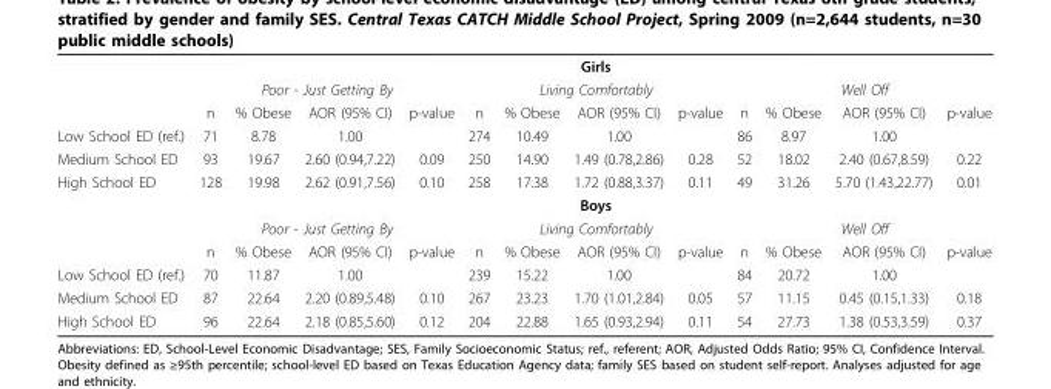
<table><thead><tr><td rowspan="3"></td><td colspan="12">Girls</td></tr><tr><td colspan="4">Poor - Just Getting By</td><td colspan="4">Living Comfortably</td><td colspan="4">Well Off</td></tr><tr><td>n</td><td>% Obese</td><td>AOR (95% CI)</td><td>p-value</td><td>n</td><td>% Obese</td><td>AOR (95% CI)</td><td>p-value</td><td>n</td><td>% Obese</td><td>AOR (95% CI)</td><td>p-value</td></tr></thead><tbody><tr><td>Low School ED (ref.)</td><td>71</td><td>8.78</td><td>1.00</td><td></td><td>274</td><td>10.49</td><td>1.00</td><td></td><td>86</td><td>8.97</td><td>1.00</td><td></td></tr><tr><td>Medium School ED</td><td>93</td><td>19.67</td><td>2.60 (0.94,7.22)</td><td>0.09</td><td>250</td><td>14.90</td><td>1.49 (0.78,2.86)</td><td>0.28</td><td>52</td><td>18.02</td><td>2.40 (0.67,8.59)</td><td>0.22</td></tr><tr><td rowspan="4">High School ED</td><td>128</td><td>19.98</td><td>2.62 (0.91,7.56)</td><td>0.10</td><td>258</td><td>17.38</td><td>1.72 (0.88,3.37)</td><td>0.11</td><td>49</td><td>31.26</td><td>5.70 (1.43,22.77)</td><td>0.01</td></tr><tr><td colspan="12">Boys</td></tr><tr><td colspan="4">Poor - Just Getting By</td><td colspan="4">Living Comfortably</td><td colspan="4">Well Off</td></tr><tr><td>n</td><td>% Obese</td><td>AOR (95% CI)</td><td>p-value</td><td>n</td><td>% Obese</td><td>AOR (95% CI)</td><td>p-value</td><td>n</td><td>% Obese</td><td>AOR (95% CI)</td><td>p-value</td></tr><tr><td>Low School ED (ref.)</td><td>70</td><td>11.87</td><td>1.00</td><td></td><td>239</td><td>15.22</td><td>1.00</td><td></td><td>84</td><td>20.72</td><td>1.00</td><td></td></tr><tr><td>Medium School ED</td><td>87</td><td>22.64</td><td>2.20 (0.89,5.48)</td><td>0.10</td><td>267</td><td>23.23</td><td>1.70 (1.01,2.84)</td><td>0.05</td><td>57</td><td>11.15</td><td>0.45 (0.15,1.33)</td><td>0.18</td></tr><tr><td>High School ED</td><td>96</td><td>22.64</td><td>2.18 (0.85,5.60)</td><td>0.12</td><td>204</td><td>22.88</td><td>1.65 (0.93,2.94)</td><td>0.11</td><td>54</td><td>27.73</td><td>1.38 (0.53,3.59)</td><td>0.37</td></tr></tbody></table>